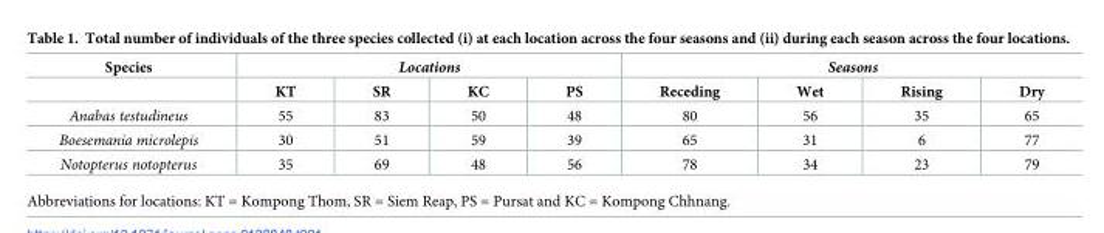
<table><thead><tr><td rowspan="2">Species</td><td colspan="4">Locations</td><td colspan="4">Seasons</td></tr><tr><td>KT</td><td>SR</td><td>KC</td><td>PS</td><td>Receding</td><td>Wet</td><td>Rising</td><td>Dry</td></tr></thead><tbody><tr><td>Anabas testudineus</td><td>55</td><td>83</td><td>50</td><td>48</td><td>80</td><td>56</td><td>35</td><td>65</td></tr><tr><td>Boesemania microlepis</td><td>30</td><td>51</td><td>59</td><td>39</td><td>65</td><td>31</td><td>6</td><td>77</td></tr><tr><td>Notopterus notopterus</td><td>35</td><td>69</td><td>48</td><td>56</td><td>78</td><td>34</td><td>23</td><td>79</td></tr></tbody></table>